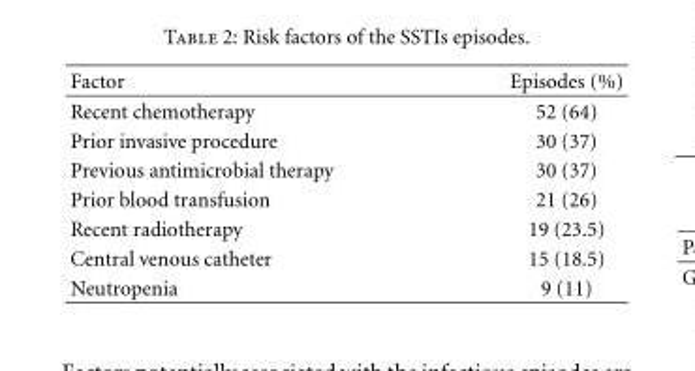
<table><thead><tr><td>Factor</td><td>Episodes (%)</td></tr></thead><tbody><tr><td>Recent chemotherapy</td><td>52 (64)</td></tr><tr><td>Prior invasive procedure</td><td>30 (37)</td></tr><tr><td>Previous antimicrobial therapy</td><td>30 (37)</td></tr><tr><td>Prior blood transfusion</td><td>21 (26)</td></tr><tr><td>Recent radiotherapy</td><td>19 (23.5)</td></tr><tr><td>Central venous catheter</td><td>15 (18.5)</td></tr><tr><td>Neutropenia</td><td>9 (11)</td></tr></tbody></table>